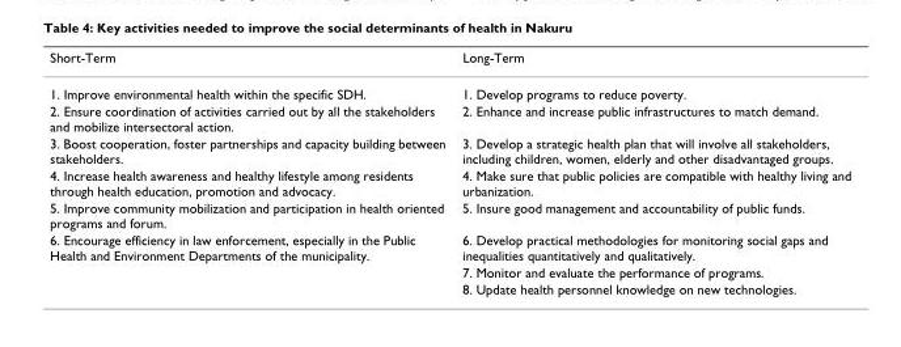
<table><thead><tr><td>Short-Term</td><td>Long-Term</td></tr></thead><tbody><tr><td>1. Improve environmental health within the specific SDH.</td><td>1. Develop programs to reduce poverty.</td></tr><tr><td>2. Ensure coordination of activities carried out by all the stakeholders and mobilize intersectoral action.</td><td>2. Enhance and increase public infrastructures to match demand.</td></tr><tr><td>3. Boost cooperation, foster partnerships and capacity building between stakeholders.</td><td>3. Develop a strategic health plan that will involve all stakeholders, including children, women, elderly and other disadvantaged groups.</td></tr><tr><td>4. Increase health awareness and healthy lifestyle among residents through health education, promotion and advocacy.</td><td>4. Make sure that public policies are compatible with healthy living and urbanization.</td></tr><tr><td>5. Improve community mobilization and participation in health oriented programs and forum.</td><td>5. Insure good management and accountability of public funds.</td></tr><tr><td rowspan="3">6. Encourage efficiency in law enforcement, especially in the Public Health and Environment Departments of the municipality.</td><td>6. Develop practical methodologies for monitoring social gaps and inequalities quantitatively and qualitatively.</td></tr><tr><td>7. Monitor and evaluate the performance of programs.</td></tr><tr><td>8. Update health personnel knowledge on new technologies.</td></tr></tbody></table>